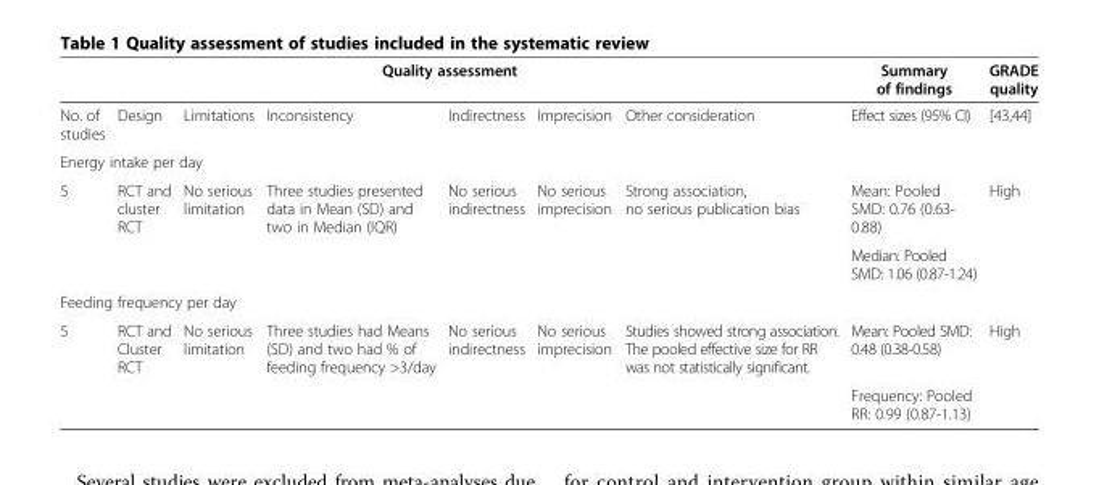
<table><thead><tr><td colspan="7">Quality assessment</td><td rowspan="2">Summary of findings Effect sizes (95% CI)</td><td rowspan="2">GRADE quality [43,44]</td></tr><tr><td>No. of studies</td><td>Design</td><td>Limitations</td><td>Inconsistency</td><td>Indirectness</td><td>Imprecision</td><td>Other consideration</td></tr></thead><tbody><tr><td colspan="9">Energy intake per day</td></tr><tr><td rowspan="2">5</td><td>RCT and cluster RCT</td><td>No serious limitation</td><td>Three studies presented data in Mean (SD) and two in Median (IQR)</td><td>No serious indirectness</td><td>No serious imprecision</td><td>Strong association, no serious publication bias</td><td>Mean: Pooled SMD: 0.76 (0.63- 0.88)</td><td>High</td></tr><tr><td></td><td></td><td></td><td></td><td></td><td></td><td>Median: Pooled SMD: 1.06 (0.87-1.24)</td><td></td></tr><tr><td colspan="9">Feeding frequency per day</td></tr><tr><td rowspan="2">5</td><td>RCT and Cluster RCT</td><td>No serious limitation</td><td>Three studies had Means (SD) and two had % of feeding frequency &gt;3/day</td><td>No serious indirectness</td><td>No serious imprecision</td><td>Studies showed strong association. The pooled effective size for RR was not statistically significant.</td><td>Mean: Pooled SMD: 0.48 (0.38-0.58)</td><td>High</td></tr><tr><td></td><td></td><td></td><td></td><td></td><td></td><td>Frequency: Pooled RR: 0.99 (0.87-1.13)</td><td></td></tr></tbody></table>